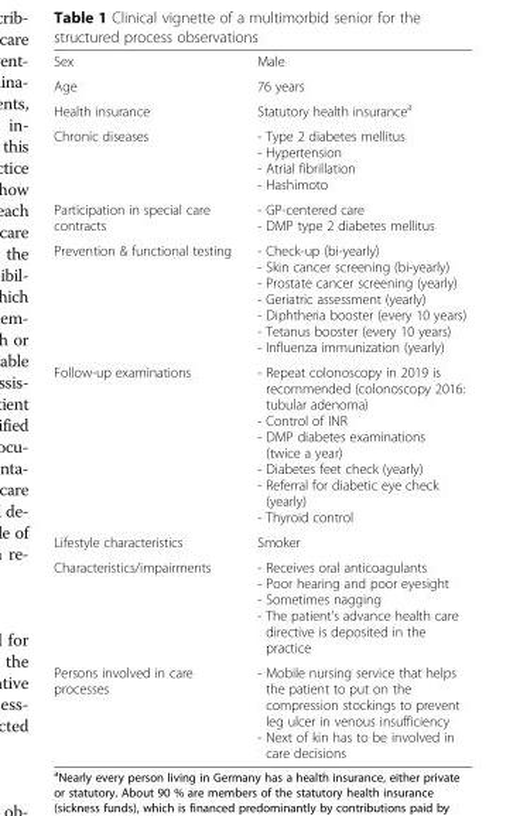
<table><tbody><tr><td>Sex</td><td>Male</td></tr><tr><td>Age</td><td>76 years</td></tr><tr><td>Health insurance</td><td>Statutory health insurance<sup>a</sup></td></tr><tr><td>Chronic diseases</td><td>- Type 2 diabetes mellitus - Hypertension - Atrial fibrillation - Hashimoto</td></tr><tr><td>Participation in special care contracts</td><td>- GP-centered care - DMP type 2 diabetes mellitus</td></tr><tr><td>Prevention &amp; functional testing</td><td>- Check-up (bi-yearly) - Skin cancer screening (bi-yearly) - Prostate cancer screening (yearly) - Geriatric assessment (yearly) - Diphtheria booster (every 10 years) - Tetanus booster (every 10 years) - Influenza immunization (yearly)</td></tr><tr><td>Follow-up examinations</td><td>- Repeat colonoscopy in 2019 is recommended (colonoscopy 2016: tubular adenoma) - Control of INR - DMP diabetes examinations (twice a year) - Diabetes feet check (yearly) - Referral for diabetic eye check (yearly) - Thyroid control</td></tr><tr><td>Lifestyle characteristics</td><td>Smoker</td></tr><tr><td>Characteristics/impairments</td><td>- Receives oral anticoagulants - Poor hearing and poor eyesight - Sometimes nagging - The patient’s advance health care directive is deposited in the practice</td></tr><tr><td>Persons involved in care processes</td><td>- Mobile nursing service that helps the patient to put on the compression stockings to prevent leg ulcer in venous insufficiency - Next of kin has to be involved in care decisions</td></tr></tbody></table>